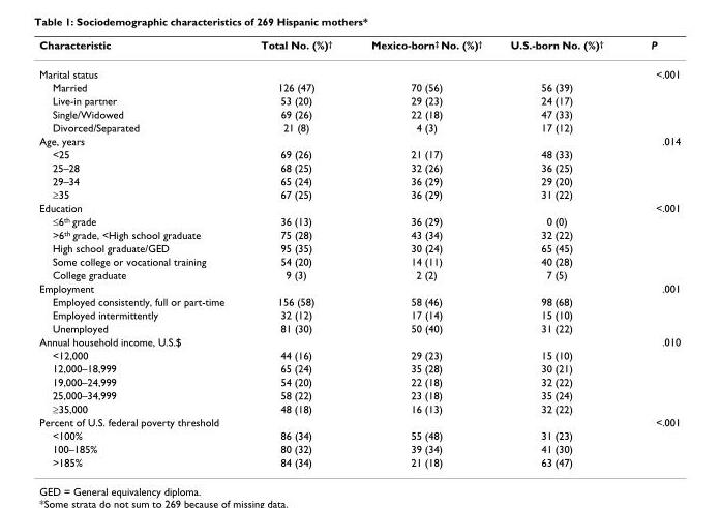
<table><thead><tr><td>Characteristic</td><td>Total No. (%)†</td><td>Mexico-born‡ No. (%)†</td><td>U.S.-born No. (%)†</td><td>P</td></tr></thead><tbody><tr><td>Marital status</td><td></td><td></td><td></td><td>&lt;.001</td></tr><tr><td>Married</td><td>126 (47)</td><td>70 (56)</td><td>56 (39)</td><td></td></tr><tr><td>Live-in partner</td><td>53 (20)</td><td>29 (23)</td><td>24 (17)</td><td></td></tr><tr><td>Single/Widowed</td><td>69 (26)</td><td>22 (18)</td><td>47 (33)</td><td></td></tr><tr><td>Divorced/Separated</td><td>21 (8)</td><td>4 (3)</td><td>17 (12)</td><td></td></tr><tr><td>Age, years</td><td></td><td></td><td></td><td>.014</td></tr><tr><td>&lt;25</td><td>69 (26)</td><td>21 (17)</td><td>48 (33)</td><td></td></tr><tr><td>25–28</td><td>68 (25)</td><td>32 (26)</td><td>36 (25)</td><td></td></tr><tr><td>29–34</td><td>65 (24)</td><td>36 (29)</td><td>29 (20)</td><td></td></tr><tr><td>≥35</td><td>67 (25)</td><td>36 (29)</td><td>31 (22)</td><td></td></tr><tr><td>Education</td><td></td><td></td><td></td><td>&lt;.001</td></tr><tr><td>≤6th grade</td><td>36 (13)</td><td>36 (29)</td><td>0 (0)</td><td></td></tr><tr><td>&gt;6th grade, &lt;High school graduate</td><td>75 (28)</td><td>43 (34)</td><td>32 (22)</td><td></td></tr><tr><td>High school graduate/GED</td><td>95 (35)</td><td>30 (24)</td><td>65 (45)</td><td></td></tr><tr><td>Some college or vocational training</td><td>54 (20)</td><td>14 (11)</td><td>40 (28)</td><td></td></tr><tr><td>College graduate</td><td>9 (3)</td><td>2 (2)</td><td>7 (5)</td><td></td></tr><tr><td>Employment</td><td></td><td></td><td></td><td>.001</td></tr><tr><td>Employed consistently, full or part-time</td><td>156 (58)</td><td>58 (46)</td><td>98 (68)</td><td></td></tr><tr><td>Employed intermittently</td><td>32 (12)</td><td>17 (14)</td><td>15 (10)</td><td></td></tr><tr><td>Unemployed</td><td>81 (30)</td><td>50 (40)</td><td>31 (22)</td><td></td></tr><tr><td>Annual household income, U.S.$</td><td></td><td></td><td></td><td>.010</td></tr><tr><td>&lt;12,000</td><td>44 (16)</td><td>29 (23)</td><td>15 (10)</td><td></td></tr><tr><td>12,000–18,999</td><td>65 (24)</td><td>35 (28)</td><td>30 (21)</td><td></td></tr><tr><td>19,000–24,999</td><td>54 (20)</td><td>22 (18)</td><td>32 (22)</td><td></td></tr><tr><td>25,000–34,999</td><td>58 (22)</td><td>23 (18)</td><td>35 (24)</td><td></td></tr><tr><td>≥35,000</td><td>48 (18)</td><td>16 (13)</td><td>32 (22)</td><td></td></tr><tr><td>Percent of U.S. federal poverty threshold</td><td></td><td></td><td></td><td>&lt;.001</td></tr><tr><td>&lt;100%</td><td>86 (34)</td><td>55 (48)</td><td>31 (23)</td><td></td></tr><tr><td>100–185%</td><td>80 (32)</td><td>39 (34)</td><td>41 (30)</td><td></td></tr><tr><td>&gt;185%</td><td>84 (34)</td><td>21 (18)</td><td>63 (47)</td><td></td></tr></tbody></table>